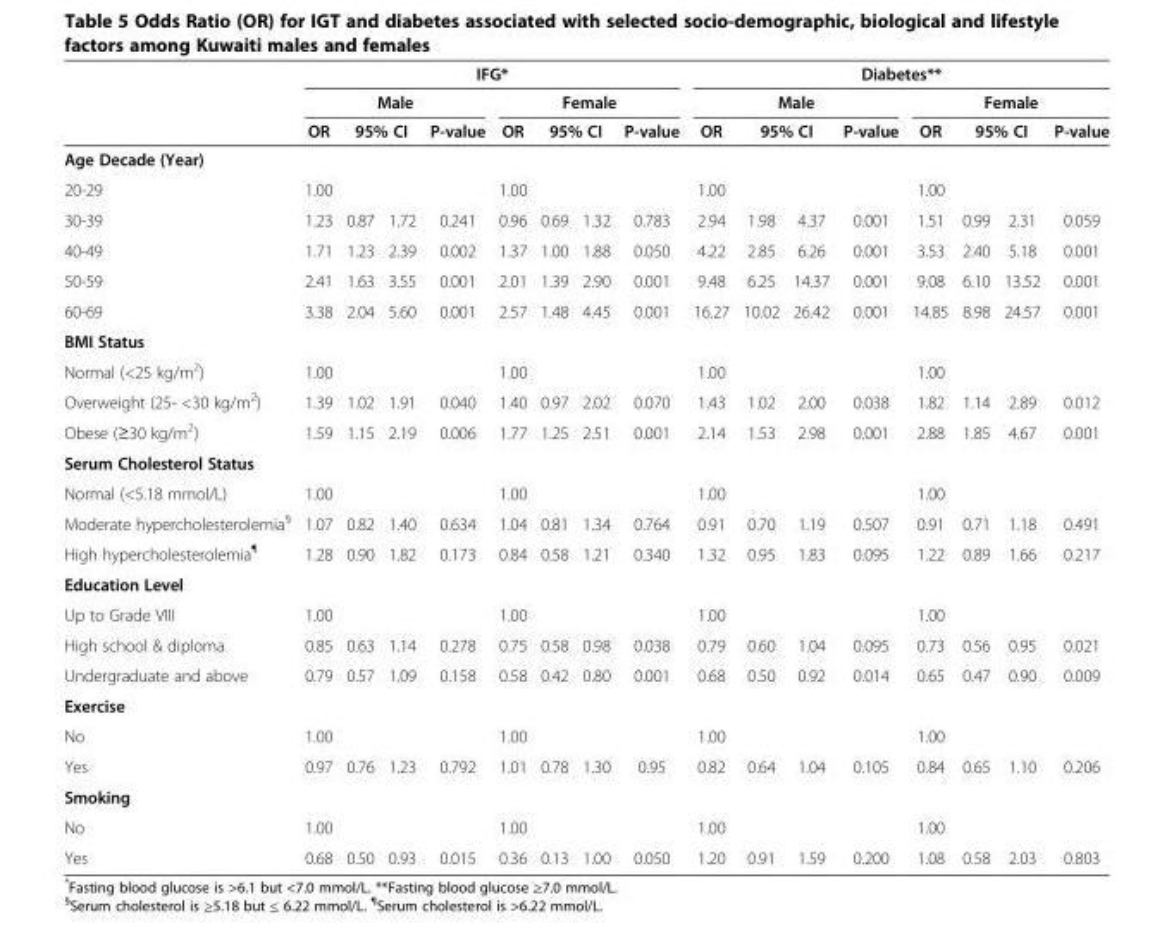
<table><thead><tr><td rowspan="4">Age Decade (Year)</td><td colspan="8">IFG*</td><td colspan="8">Diabetes**</td></tr><tr><td colspan="4">Male</td><td colspan="4">Female</td><td colspan="4">Male</td><td colspan="4">Female</td></tr><tr><td rowspan="2">OR</td><td colspan="2">95% CI</td><td rowspan="2">P-value</td><td rowspan="2">OR</td><td colspan="2">95% CI</td><td rowspan="2">P-value</td><td rowspan="2">OR</td><td colspan="2">95% CI</td><td rowspan="2">P-value</td><td rowspan="2">OR</td><td colspan="2">95% CI</td><td rowspan="2">P-value</td></tr><tr><td></td><td></td><td></td><td></td><td></td><td></td><td></td><td></td></tr></thead><tbody><tr><td>20-29</td><td>1.00</td><td></td><td></td><td></td><td>1.00</td><td></td><td></td><td></td><td>1.00</td><td></td><td></td><td></td><td>1.00</td><td></td><td></td><td></td></tr><tr><td>30-39</td><td>1.23</td><td>0.87</td><td>1.72</td><td>0.241</td><td>0.96</td><td>0.69</td><td>1.32</td><td>0.783</td><td>2.94</td><td>1.98</td><td>4.37</td><td>0.001</td><td>1.51</td><td>0.99</td><td>2.31</td><td>0.059</td></tr><tr><td>40-49</td><td>1.71</td><td>1.23</td><td>2.39</td><td>0.002</td><td>1.37</td><td>1.00</td><td>1.88</td><td>0.050</td><td>4.22</td><td>2.85</td><td>6.26</td><td>0.001</td><td>3.53</td><td>2.40</td><td>5.18</td><td>0.001</td></tr><tr><td>50-59</td><td>2.41</td><td>1.63</td><td>3.55</td><td>0.001</td><td>2.01</td><td>1.39</td><td>2.90</td><td>0.001</td><td>9.48</td><td>6.25</td><td>14.37</td><td>0.001</td><td>9.08</td><td>6.10</td><td>13.52</td><td>0.001</td></tr><tr><td>60-69</td><td>3.38</td><td>2.04</td><td>5.60</td><td>0.001</td><td>2.57</td><td>1.48</td><td>4.45</td><td>0.001</td><td>16.27</td><td>10.02</td><td>26.42</td><td>0.001</td><td>14.85</td><td>8.98</td><td>24.57</td><td>0.001</td></tr><tr><td colspan="17">BMI Status</td></tr><tr><td>Normal (&lt;25 kg/m<sup>2</sup>)</td><td>1.00</td><td></td><td></td><td></td><td>1.00</td><td></td><td></td><td></td><td>1.00</td><td></td><td></td><td></td><td>1.00</td><td></td><td></td><td></td></tr><tr><td>Overweight (25- &lt;30 kg/m<sup>2</sup>)</td><td>1.39</td><td>1.02</td><td>1.91</td><td>0.040</td><td>1.40</td><td>0.97</td><td>2.02</td><td>0.070</td><td>1.43</td><td>1.02</td><td>2.00</td><td>0.038</td><td>1.82</td><td>1.14</td><td>2.89</td><td>0.012</td></tr><tr><td>Obese (≥30 kg/m<sup>2</sup>)</td><td>1.59</td><td>1.15</td><td>2.19</td><td>0.006</td><td>1.77</td><td>1.25</td><td>2.51</td><td>0.001</td><td>2.14</td><td>1.53</td><td>2.98</td><td>0.001</td><td>2.88</td><td>1.85</td><td>4.67</td><td>0.001</td></tr><tr><td colspan="17">Serum Cholesterol Status</td></tr><tr><td>Normal (&lt;5.18 mmol/L)</td><td>1.00</td><td></td><td></td><td></td><td>1.00</td><td></td><td></td><td></td><td>1.00</td><td></td><td></td><td></td><td>1.00</td><td></td><td></td><td></td></tr><tr><td>Moderate hypercholesterolemia<sup>§</sup></td><td>1.07</td><td>0.82</td><td>1.40</td><td>0.634</td><td>1.04</td><td>0.81</td><td>1.34</td><td>0.764</td><td>0.91</td><td>0.70</td><td>1.19</td><td>0.507</td><td>0.91</td><td>0.71</td><td>1.18</td><td>0.491</td></tr><tr><td>High hypercholesterolemia<sup>¶</sup></td><td>1.28</td><td>0.90</td><td>1.82</td><td>0.173</td><td>0.84</td><td>0.58</td><td>1.21</td><td>0.340</td><td>1.32</td><td>0.95</td><td>1.83</td><td>0.095</td><td>1.22</td><td>0.89</td><td>1.66</td><td>0.217</td></tr><tr><td colspan="17">Education Level</td></tr><tr><td>Up to Grade VIII</td><td>1.00</td><td></td><td></td><td></td><td>1.00</td><td></td><td></td><td></td><td>1.00</td><td></td><td></td><td></td><td>1.00</td><td></td><td></td><td></td></tr><tr><td>High school &amp; diploma</td><td>0.85</td><td>0.63</td><td>1.14</td><td>0.278</td><td>0.75</td><td>0.58</td><td>0.98</td><td>0.038</td><td>0.79</td><td>0.60</td><td>1.04</td><td>0.095</td><td>0.73</td><td>0.56</td><td>0.95</td><td>0.021</td></tr><tr><td>Undergraduate and above</td><td>0.79</td><td>0.57</td><td>1.09</td><td>0.158</td><td>0.58</td><td>0.42</td><td>0.80</td><td>0.001</td><td>0.68</td><td>0.50</td><td>0.92</td><td>0.014</td><td>0.65</td><td>0.47</td><td>0.90</td><td>0.009</td></tr><tr><td colspan="17">Exercise</td></tr><tr><td>No</td><td>1.00</td><td></td><td></td><td></td><td>1.00</td><td></td><td></td><td></td><td>1.00</td><td></td><td></td><td></td><td>1.00</td><td></td><td></td><td></td></tr><tr><td>Yes</td><td>0.97</td><td>0.76</td><td>1.23</td><td>0.792</td><td>1.01</td><td>0.78</td><td>1.30</td><td>0.95</td><td>0.82</td><td>0.64</td><td>1.04</td><td>0.105</td><td>0.84</td><td>0.65</td><td>1.10</td><td>0.206</td></tr><tr><td colspan="17">Smoking</td></tr><tr><td>No</td><td>1.00</td><td></td><td></td><td></td><td>1.00</td><td></td><td></td><td></td><td>1.00</td><td></td><td></td><td></td><td>1.00</td><td></td><td></td><td></td></tr><tr><td>Yes</td><td>0.68</td><td>0.50</td><td>0.93</td><td>0.015</td><td>0.36</td><td>0.13</td><td>1.00</td><td>0.050</td><td>1.20</td><td>0.91</td><td>1.59</td><td>0.200</td><td>1.08</td><td>0.58</td><td>2.03</td><td>0.803</td></tr></tbody></table>